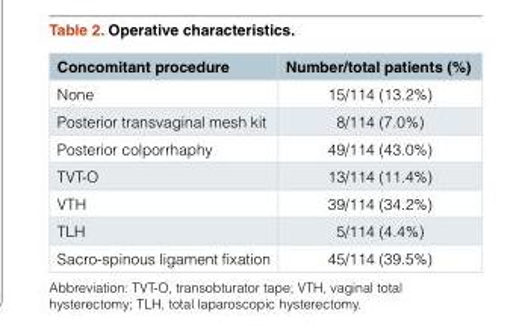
<table><thead><tr><td>Concomitant procedure</td><td>Number/total patients (%)</td></tr></thead><tbody><tr><td>None</td><td>15/114 (13.2%)</td></tr><tr><td>Posterior transvaginal mesh kit</td><td>8/114 (7.0%)</td></tr><tr><td>Posterior colporrhaphy</td><td>49/114 (43.0%)</td></tr><tr><td>TVT-O</td><td>13/114 (11.4%)</td></tr><tr><td>VTH</td><td>39/114 (34.2%)</td></tr><tr><td>TLH</td><td>5/114 (4.4%)</td></tr><tr><td>Sacro-spinous ligament fixation</td><td>45/114 (39.5%)</td></tr></tbody></table>